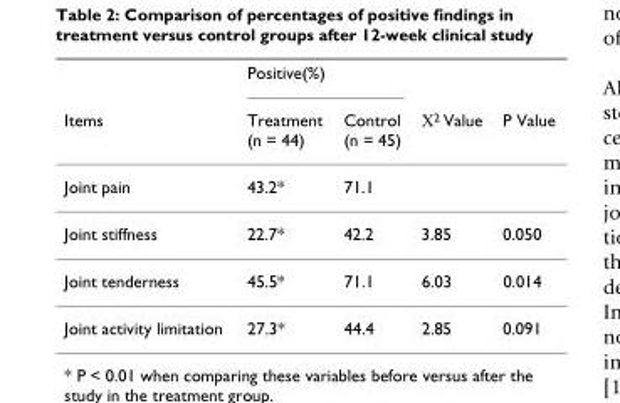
<table><thead><tr><td rowspan="2">Items</td><td colspan="2">Positive(%)</td><td rowspan="2">Χ<sup>2</sup> Value</td><td rowspan="2">P Value</td></tr><tr><td>Treatment (n = 44)</td><td>Control (n = 45)</td></tr></thead><tbody><tr><td>Joint pain</td><td>43.2*</td><td>71.1</td><td></td><td></td></tr><tr><td>Joint stiffness</td><td>22.7*</td><td>42.2</td><td>3.85</td><td>0.050</td></tr><tr><td>Joint tenderness</td><td>45.5*</td><td>71.1</td><td>6.03</td><td>0.014</td></tr><tr><td>Joint activity limitation</td><td>27.3*</td><td>44.4</td><td>2.85</td><td>0.091</td></tr></tbody></table>